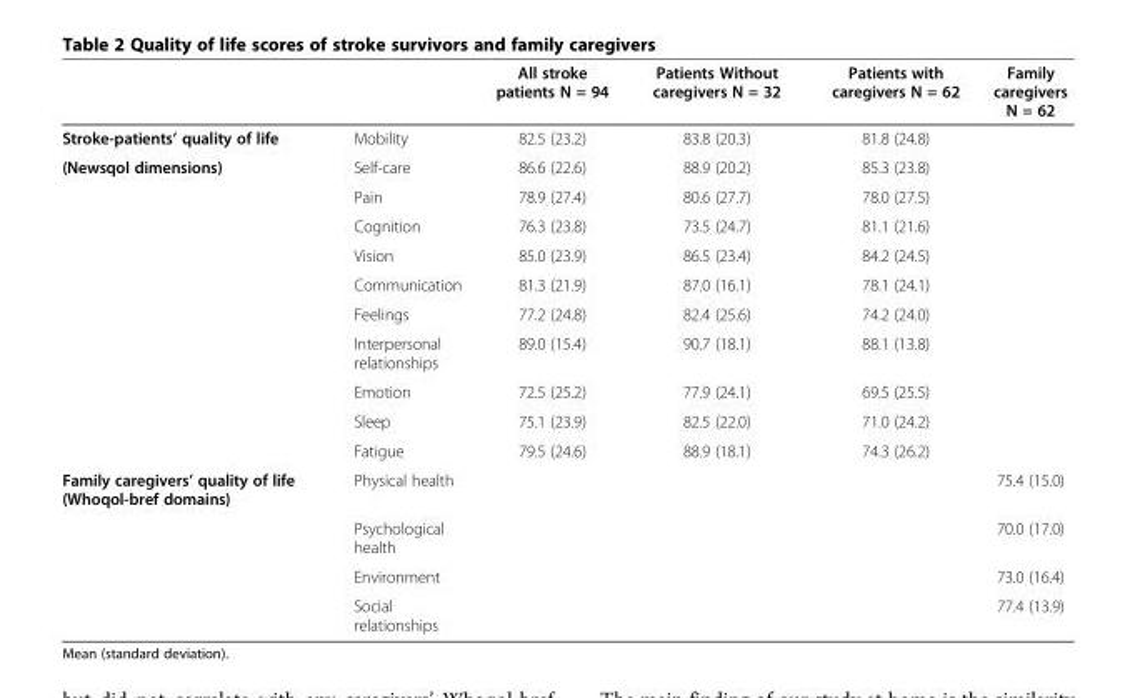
<table><thead><tr><td></td><td></td><td>All stroke patients N = 94</td><td>Patients Without caregivers N = 32</td><td>Patients with caregivers N = 62</td><td>Family caregivers N = 62</td></tr></thead><tbody><tr><td>Stroke-patients’ quality of life</td><td>Mobility</td><td>82.5 (23.2)</td><td>83.8 (20.3)</td><td>81.8 (24.8)</td><td></td></tr><tr><td rowspan="10">(Newsqol dimensions)</td><td>Self-care</td><td>86.6 (22.6)</td><td>88.9 (20.2)</td><td>85.3 (23.8)</td><td></td></tr><tr><td>Pain</td><td>78.9 (27.4)</td><td>80.6 (27.7)</td><td>78.0 (27.5)</td><td></td></tr><tr><td>Cognition</td><td>76.3 (23.8)</td><td>73.5 (24.7)</td><td>81.1 (21.6)</td><td></td></tr><tr><td>Vision</td><td>85.0 (23.9)</td><td>86.5 (23.4)</td><td>84.2 (24.5)</td><td></td></tr><tr><td>Communication</td><td>81.3 (21.9)</td><td>87.0 (16.1)</td><td>78.1 (24.1)</td><td></td></tr><tr><td>Feelings</td><td>77.2 (24.8)</td><td>82.4 (25.6)</td><td>74.2 (24.0)</td><td></td></tr><tr><td>Interpersonal relationships</td><td>89.0 (15.4)</td><td>90.7 (18.1)</td><td>88.1 (13.8)</td><td></td></tr><tr><td>Emotion</td><td>72.5 (25.2)</td><td>77.9 (24.1)</td><td>69.5 (25.5)</td><td></td></tr><tr><td>Sleep</td><td>75.1 (23.9)</td><td>82.5 (22.0)</td><td>71.0 (24.2)</td><td></td></tr><tr><td>Fatigue</td><td>79.5 (24.6)</td><td>88.9 (18.1)</td><td>74.3 (26.2)</td><td></td></tr><tr><td rowspan="4">Family caregivers’ quality of life (Whoqol-bref domains)</td><td>Physical health</td><td></td><td></td><td></td><td>75.4 (15.0)</td></tr><tr><td>Psychological health</td><td></td><td></td><td></td><td>70.0 (17.0)</td></tr><tr><td>Environment</td><td></td><td></td><td></td><td>73.0 (16.4)</td></tr><tr><td>Social relationships</td><td></td><td></td><td></td><td>77.4 (13.9)</td></tr></tbody></table>